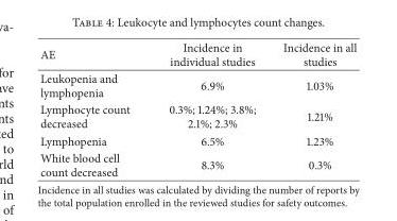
<table><thead><tr><td>AE</td><td>Incidence in individual studies</td><td>Incidence in all studies</td></tr></thead><tbody><tr><td>Leukopenia and lymphopenia</td><td>6.9%</td><td>1.03%</td></tr><tr><td>Lymphocyte count decreased</td><td>0.3%; 1.24%; 3.8%; 2.1%; 2.3%</td><td>1.21%</td></tr><tr><td>Lymphopenia</td><td>6.5%</td><td>1.23%</td></tr><tr><td>White blood cell count decreased</td><td>8.3%</td><td>0.3%</td></tr></tbody></table>